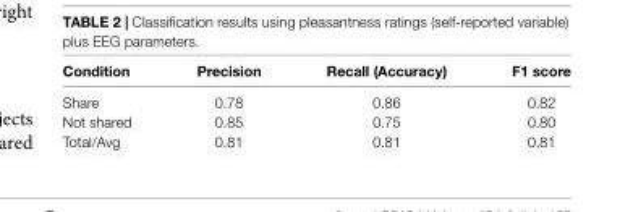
<table><thead><tr><td>Condition</td><td>Precision</td><td>Recall (Accuracy)</td><td>F1 score</td></tr></thead><tbody><tr><td>Share</td><td>0.78</td><td>0.86</td><td>0.82</td></tr><tr><td>Not shared</td><td>0.85</td><td>0.75</td><td>0.80</td></tr><tr><td>Total/Avg</td><td>0.81</td><td>0.81</td><td>0.81</td></tr></tbody></table>